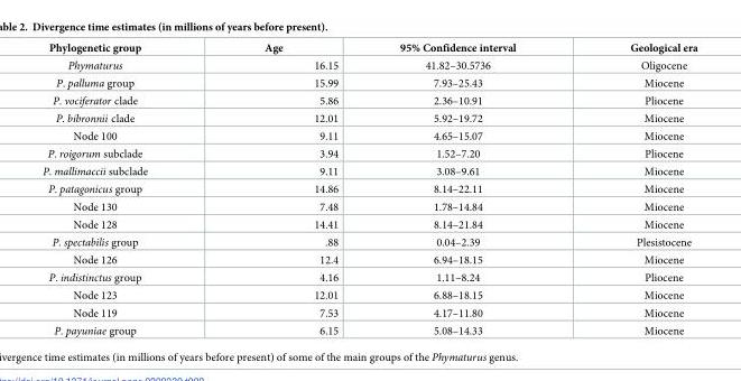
<table><thead><tr><td>Phylogenetic group</td><td>Age</td><td>95% Confidence interval</td><td>Geological era</td></tr></thead><tbody><tr><td>Phymaturus</td><td>16.15</td><td>41.82–30.5736</td><td>Oligocene</td></tr><tr><td>P. palluma group</td><td>15.99</td><td>7.93–25.43</td><td>Miocene</td></tr><tr><td>P. vociferator clade</td><td>5.86</td><td>2.36–10.91</td><td>Pliocene</td></tr><tr><td>P. bibronnii clade</td><td>12.01</td><td>5.92–19.72</td><td>Miocene</td></tr><tr><td>Node 100</td><td>9.11</td><td>4.65–15.07</td><td>Miocene</td></tr><tr><td>P. roigorum subclade</td><td>3.94</td><td>1.52–7.20</td><td>Pliocene</td></tr><tr><td>P. mallimaccii subclade</td><td>9.11</td><td>3.08–9.61</td><td>Miocene</td></tr><tr><td>P. patagonicus group</td><td>14.86</td><td>8.14–22.11</td><td>Miocene</td></tr><tr><td>Node 130</td><td>7.48</td><td>1.78–14.84</td><td>Miocene</td></tr><tr><td>Node 128</td><td>14.41</td><td>8.14–21.84</td><td>Miocene</td></tr><tr><td>P. spectabilis group</td><td>.88</td><td>0.04–2.39</td><td>Plesistocene</td></tr><tr><td>Node 126</td><td>12.4</td><td>6.94–18.15</td><td>Miocene</td></tr><tr><td>P. indistinctus group</td><td>4.16</td><td>1.11–8.24</td><td>Pliocene</td></tr><tr><td>Node 123</td><td>12.01</td><td>6.88–18.15</td><td>Miocene</td></tr><tr><td>Node 119</td><td>7.53</td><td>4.17–11.80</td><td>Miocene</td></tr><tr><td>P. payuniae group</td><td>6.15</td><td>5.08–14.33</td><td>Miocene</td></tr></tbody></table>